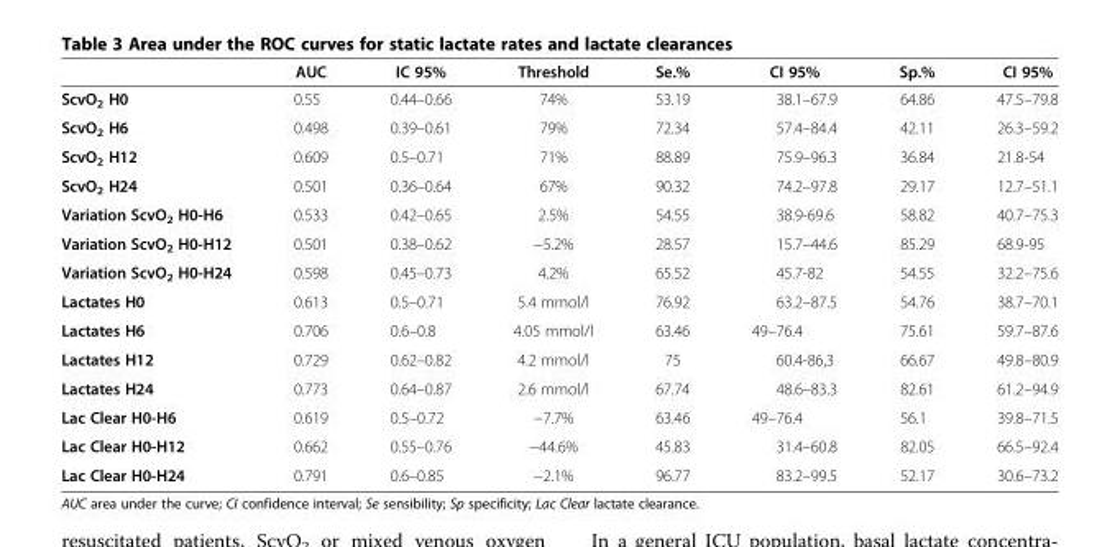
<table><thead><tr><td></td><td>AUC</td><td>IC 95%</td><td>Threshold</td><td>Se.%</td><td>CI 95%</td><td>Sp.%</td><td>CI 95%</td></tr></thead><tbody><tr><td>ScvO<sub>2</sub> H0</td><td>0.55</td><td>0.44–0.66</td><td>74%</td><td>53.19</td><td>38.1–67.9</td><td>64.86</td><td>47.5–79.8</td></tr><tr><td>ScvO<sub>2</sub> H6</td><td>0.498</td><td>0.39–0.61</td><td>79%</td><td>72.34</td><td>57.4–84.4</td><td>42.11</td><td>26.3–59.2</td></tr><tr><td>ScvO<sub>2</sub> H12</td><td>0.609</td><td>0.5–0.71</td><td>71%</td><td>88.89</td><td>75.9–96.3</td><td>36.84</td><td>21.8-54</td></tr><tr><td>ScvO<sub>2</sub> H24</td><td>0.501</td><td>0.36–0.64</td><td>67%</td><td>90.32</td><td>74.2–97.8</td><td>29.17</td><td>12.7–51.1</td></tr><tr><td>Variation ScvO<sub>2</sub> H0-H6</td><td>0.533</td><td>0.42–0.65</td><td>2.5%</td><td>54.55</td><td>38.9-69.6</td><td>58.82</td><td>40.7–75.3</td></tr><tr><td>Variation ScvO<sub>2</sub> H0-H12</td><td>0.501</td><td>0.38–0.62</td><td>−5.2%</td><td>28.57</td><td>15.7–44.6</td><td>85.29</td><td>68.9-95</td></tr><tr><td>Variation ScvO<sub>2</sub> H0-H24</td><td>0.598</td><td>0.45–0.73</td><td>4.2%</td><td>65.52</td><td>45.7-82</td><td>54.55</td><td>32.2–75.6</td></tr><tr><td>Lactates H0</td><td>0.613</td><td>0.5–0.71</td><td>5.4 mmol/l</td><td>76.92</td><td>63.2–87.5</td><td>54.76</td><td>38.7–70.1</td></tr><tr><td>Lactates H6</td><td>0.706</td><td>0.6–0.8</td><td>4.05 mmol/l</td><td>63.46</td><td>49–76.4</td><td>75.61</td><td>59.7–87.6</td></tr><tr><td>Lactates H12</td><td>0.729</td><td>0.62–0.82</td><td>4.2 mmol/l</td><td>75</td><td>60.4-86,3</td><td>66.67</td><td>49.8–80.9</td></tr><tr><td>Lactates H24</td><td>0.773</td><td>0.64–0.87</td><td>2.6 mmol/l</td><td>67.74</td><td>48.6–83.3</td><td>82.61</td><td>61.2–94.9</td></tr><tr><td>Lac Clear H0-H6</td><td>0.619</td><td>0.5–0.72</td><td>−7.7%</td><td>63.46</td><td>49–76.4</td><td>56.1</td><td>39.8–71.5</td></tr><tr><td>Lac Clear H0-H12</td><td>0.662</td><td>0.55–0.76</td><td>−44.6%</td><td>45.83</td><td>31.4–60.8</td><td>82.05</td><td>66.5–92.4</td></tr><tr><td>Lac Clear H0-H24</td><td>0.791</td><td>0.6–0.85</td><td>−2.1%</td><td>96.77</td><td>83.2–99.5</td><td>52.17</td><td>30.6–73.2</td></tr></tbody></table>